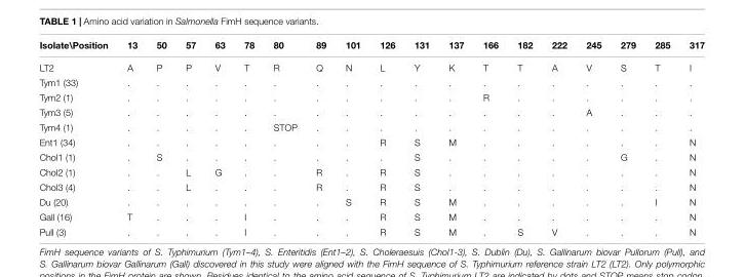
<table><thead><tr><td>Isolate\Position</td><td>13</td><td>50</td><td>57</td><td>63</td><td>78</td><td>80</td><td>89</td><td>101</td><td>126</td><td>131</td><td>137</td><td>166</td><td>182</td><td>222</td><td>245</td><td>279</td><td>285</td><td>317</td></tr></thead><tbody><tr><td>LT2</td><td>A</td><td>P</td><td>P</td><td>V</td><td>T</td><td>R</td><td>Q</td><td>N</td><td>L</td><td>Y</td><td>K</td><td>T</td><td>T</td><td>A</td><td>V</td><td>S</td><td>T</td><td>I</td></tr><tr><td>Tym1 (33)</td><td>.</td><td>.</td><td>.</td><td>.</td><td>.</td><td>.</td><td>.</td><td>.</td><td>.</td><td>.</td><td>.</td><td>.</td><td>.</td><td>.</td><td>.</td><td>.</td><td>.</td><td>.</td></tr><tr><td>Tym2 (1)</td><td>.</td><td>.</td><td>.</td><td>.</td><td>.</td><td>.</td><td>.</td><td>.</td><td>.</td><td>.</td><td>.</td><td>R</td><td>.</td><td>.</td><td>.</td><td>.</td><td>.</td><td>.</td></tr><tr><td>Tym3 (5)</td><td>.</td><td>.</td><td>.</td><td>.</td><td>.</td><td>.</td><td>.</td><td>.</td><td>.</td><td>.</td><td>.</td><td>.</td><td>.</td><td>.</td><td>A</td><td>.</td><td>.</td><td>.</td></tr><tr><td>Tym4 (1)</td><td>.</td><td>.</td><td>.</td><td>.</td><td>.</td><td>STOP</td><td>.</td><td>.</td><td>.</td><td>.</td><td>.</td><td>.</td><td>.</td><td>.</td><td>.</td><td>.</td><td>.</td><td>.</td></tr><tr><td>Ent1 (34)</td><td>.</td><td>.</td><td>.</td><td>.</td><td>.</td><td>.</td><td>.</td><td>.</td><td>R</td><td>S</td><td>M</td><td>.</td><td>.</td><td>.</td><td>.</td><td>.</td><td>.</td><td>N</td></tr><tr><td>Chol1 (1)</td><td>.</td><td>S</td><td>.</td><td>.</td><td>.</td><td>.</td><td>.</td><td>.</td><td>.</td><td>S</td><td>.</td><td>.</td><td>.</td><td>.</td><td>.</td><td>G</td><td>.</td><td>N</td></tr><tr><td>Chol2 (1)</td><td>.</td><td>.</td><td>L</td><td>G</td><td>.</td><td>.</td><td>R</td><td>.</td><td>R</td><td>S</td><td>.</td><td>.</td><td>.</td><td>.</td><td>.</td><td>.</td><td>.</td><td>N</td></tr><tr><td>Chol3 (4)</td><td>.</td><td>.</td><td>L</td><td>.</td><td>.</td><td>.</td><td>R</td><td>.</td><td>R</td><td>S</td><td>.</td><td>.</td><td>.</td><td>.</td><td>.</td><td>.</td><td>.</td><td>N</td></tr><tr><td>Du (20)</td><td>.</td><td>.</td><td>.</td><td>.</td><td>.</td><td>.</td><td>.</td><td>S</td><td>R</td><td>S</td><td>M</td><td>.</td><td>.</td><td>.</td><td>.</td><td>.</td><td>I</td><td>N</td></tr><tr><td>Gall (16)</td><td>T</td><td>.</td><td>.</td><td>.</td><td>I</td><td>.</td><td>.</td><td>.</td><td>R</td><td>S</td><td>M</td><td>.</td><td>.</td><td>.</td><td>.</td><td>.</td><td>.</td><td>N</td></tr><tr><td>Pull (3)</td><td>.</td><td>.</td><td>.</td><td>.</td><td>I</td><td>.</td><td>.</td><td>.</td><td>R</td><td>S</td><td>M</td><td>.</td><td>S</td><td>V</td><td>.</td><td>.</td><td>.</td><td>N</td></tr></tbody></table>